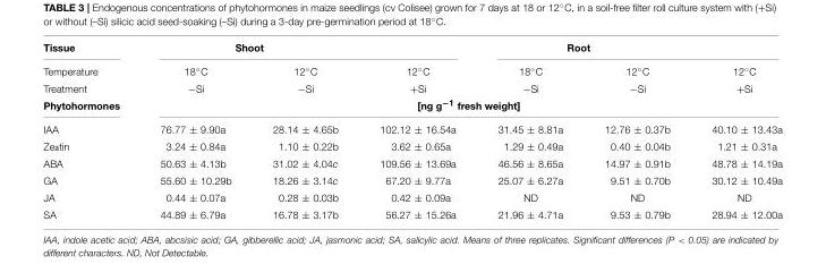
<table><thead><tr><td rowspan="4">Tissue Temperature Treatment Phytohormones</td><td colspan="3">Shoot</td><td colspan="3">Root</td></tr><tr><td rowspan="2">18◦C −Si</td><td rowspan="2">12◦C −Si</td><td rowspan="2">12◦C +Si</td><td rowspan="2">18◦C −Si</td><td rowspan="2">12◦C −Si</td><td rowspan="2">12◦C +Si</td></tr><tr></tr><tr><td colspan="6">[ng g<sup>−1</sup> fresh weight]</td></tr></thead><tbody><tr><td>IAA</td><td>76.77 ± 9.90a</td><td>28.14 ± 4.65b</td><td>102.12 ± 16.54a</td><td>31.45 ± 8.81a</td><td>12.76 ± 0.37b</td><td>40.10 ± 13.43a</td></tr><tr><td>Zeatin</td><td>3.24 ± 0.84a</td><td>1.10 ± 0.22b</td><td>3.62 ± 0.65a</td><td>1.29 ± 0.49a</td><td>0.40 ± 0.04b</td><td>1.21 ± 0.31a</td></tr><tr><td>ABA</td><td>50.63 ± 4.13b</td><td>31.02 ± 4.04c</td><td>109.56 ± 13.69a</td><td>46.56 ± 8.65a</td><td>14.97 ± 0.91b</td><td>48.78 ± 14.19a</td></tr><tr><td>GA</td><td>55.60 ± 10.29b</td><td>18.26 ± 3.14c</td><td>67.20 ± 9.77a</td><td>25.07 ± 6.27a</td><td>9.51 ± 0.70b</td><td>30.12 ± 10.49a</td></tr><tr><td>JA</td><td>0.44 ± 0.07a</td><td>0.28 ± 0.03b</td><td>0.42 ± 0.09a</td><td>ND</td><td>ND</td><td>ND</td></tr><tr><td>SA</td><td>44.89 ± 6.79a</td><td>16.78 ± 3.17b</td><td>56.27 ± 15.26a</td><td>21.96 ± 4.71a</td><td>9.53 ± 0.79b</td><td>28.94 ± 12.00a</td></tr></tbody></table>